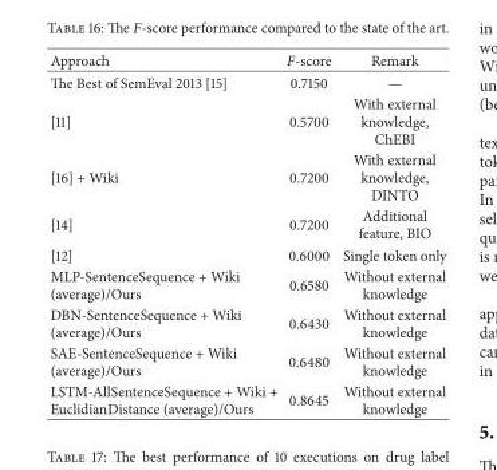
<table><thead><tr><td>Approach</td><td>F-score</td><td>Remark</td></tr></thead><tbody><tr><td>The Best of SemEval 2013 [15]</td><td>0.7150</td><td>—</td></tr><tr><td>[11]</td><td>0.5700</td><td>With external knowledge, ChEBI</td></tr><tr><td>[16] + Wiki</td><td>0.7200</td><td>With external knowledge, DINTO</td></tr><tr><td>[14]</td><td>0.7200</td><td>Additional feature, BIO</td></tr><tr><td>[12]</td><td>0.6000</td><td>Single token only</td></tr><tr><td>MLP-SentenceSequence + Wiki (average)/Ours</td><td>0.6580</td><td>Without external knowledge</td></tr><tr><td>DBN-SentenceSequence + Wiki (average)/Ours</td><td>0.6430</td><td>Without external knowledge</td></tr><tr><td>SAE-SentenceSequence + Wiki (average)/Ours</td><td>0.6480</td><td>Without external knowledge</td></tr><tr><td>LSTM-AllSentenceSequence + Wiki + EuclidianDistance (average)/Ours</td><td>0.8645</td><td>Without external knowledge</td></tr></tbody></table>